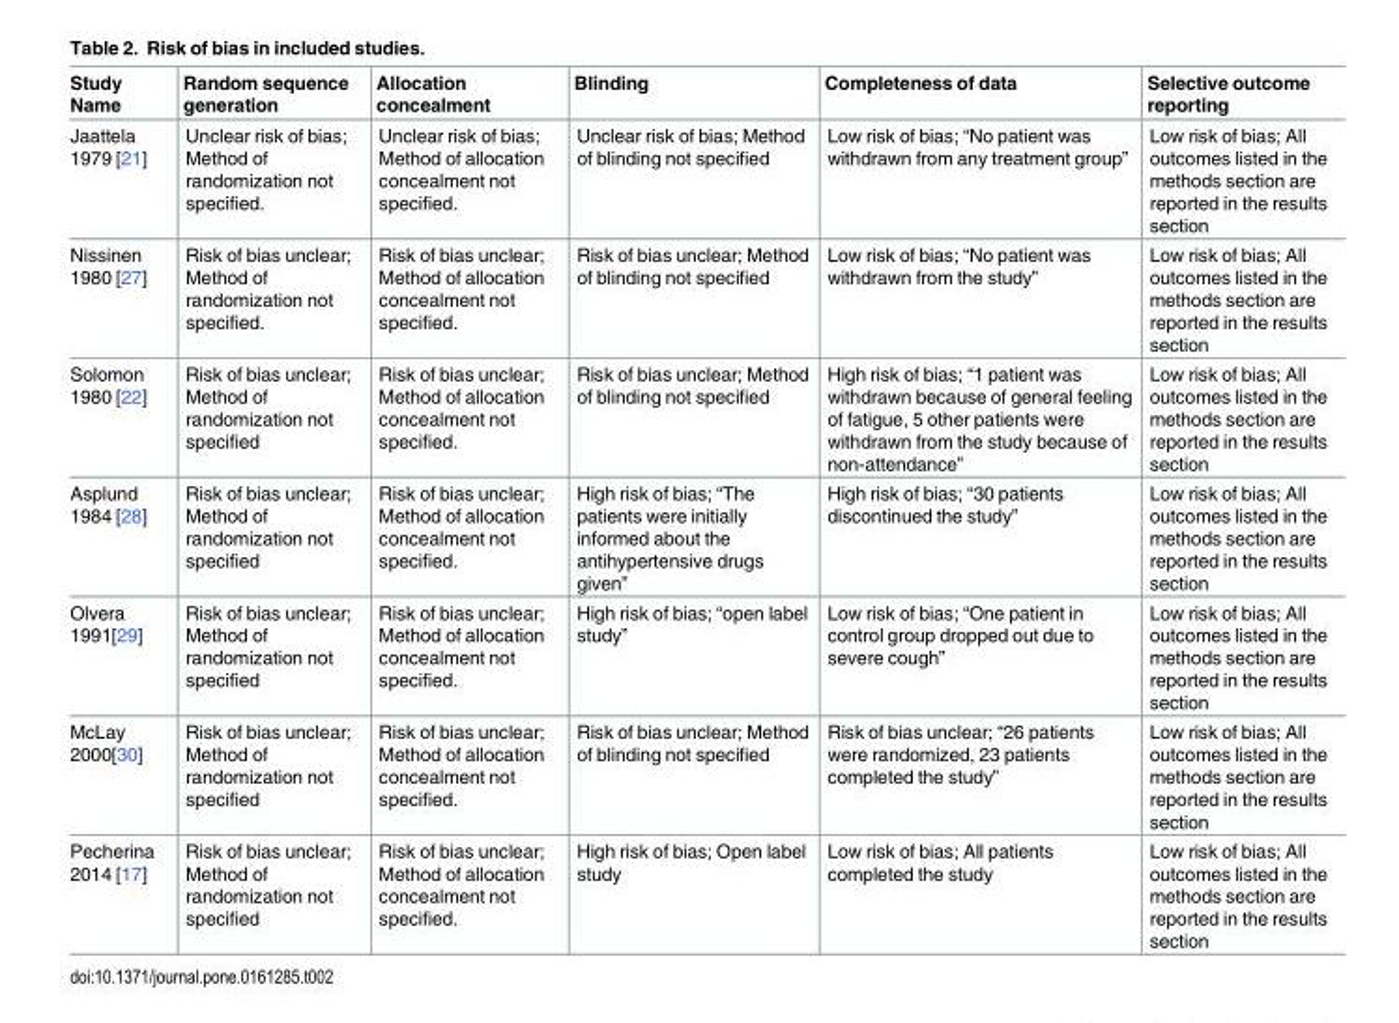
<table><thead><tr><td>Study Name</td><td>Random sequence generation</td><td>Allocation concealment</td><td>Blinding</td><td>Completeness of data</td><td>Selective outcome reporting</td></tr></thead><tbody><tr><td>Jaattela 1979 [21]</td><td>Unclear risk of bias; Method of randomization not specified.</td><td>Unclear risk of bias; Method of allocation concealment not specified.</td><td>Unclear risk of bias; Method of blinding not specified</td><td>Low risk of bias; “No patient was withdrawn from any treatment group”</td><td>Low risk of bias; All outcomes listed in the methods section are reported in the results section</td></tr><tr><td>Nissinen 1980 [27]</td><td>Risk of bias unclear; Method of randomization not specified.</td><td>Risk of bias unclear; Method of allocation concealment not specified.</td><td>Risk of bias unclear; Method of blinding not specified</td><td>Low risk of bias; “No patient was withdrawn from the study”</td><td>Low risk of bias; All outcomes listed in the methods section are reported in the results section</td></tr><tr><td>Solomon 1980 [22]</td><td>Risk of bias unclear; Method of randomization not specified</td><td>Risk of bias unclear; Method of allocation concealment not specified.</td><td>Risk of bias unclear; Method of blinding not specified</td><td>High risk of bias; “1 patient was withdrawn because of general feeling of fatigue, 5 other patients were withdrawn from the study because of non-attendance”</td><td>Low risk of bias; All outcomes listed in the methods section are reported in the results section</td></tr><tr><td>Asplund 1984 [28]</td><td>Risk of bias unclear; Method of randomization not specified</td><td>Risk of bias unclear; Method of allocation concealment not specified.</td><td>High risk of bias; “The patients were initially informed about the antihypertensive drugs given”</td><td>High risk of bias; “30 patients discontinued the study”</td><td>Low risk of bias; All outcomes listed in the methods section are reported in the results section</td></tr><tr><td>Olvera 1991[29]</td><td>Risk of bias unclear; Method of randomization not specified</td><td>Risk of bias unclear; Method of allocation concealment not specified.</td><td>High risk of bias; “open label study”</td><td>Low risk of bias; “One patient in control group dropped out due to severe cough”</td><td>Low risk of bias; All outcomes listed in the methods section are reported in the results section</td></tr><tr><td>McLay 2000[30]</td><td>Risk of bias unclear; Method of randomization not specified</td><td>Risk of bias unclear; Method of allocation concealment not specified.</td><td>Risk of bias unclear; Method of blinding not specified</td><td>Risk of bias unclear; “26 patients were randomized, 23 patients completed the study”</td><td>Low risk of bias; All outcomes listed in the methods section are reported in the results section</td></tr><tr><td>Pecherina 2014 [17]</td><td>Risk of bias unclear; Method of randomization not specified</td><td>Risk of bias unclear; Method of allocation concealment not specified.</td><td>High risk of bias; Open label study</td><td>Low risk of bias; All patients completed the study</td><td>Low risk of bias; All outcomes listed in the methods section are reported in the results section</td></tr></tbody></table>